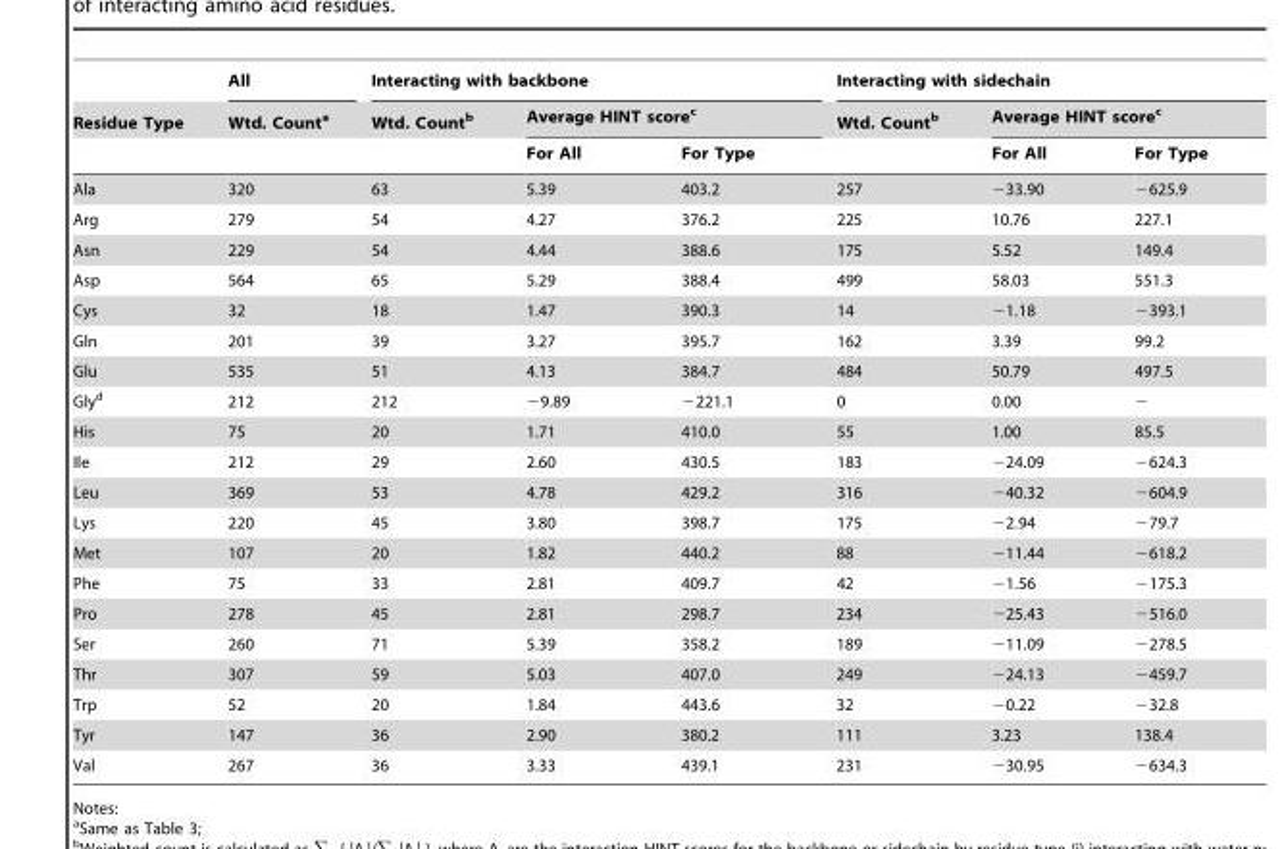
<table><thead><tr><td rowspan="3">Residue Type</td><td rowspan="3">All Wtd. Count<sup>a</sup></td><td colspan="3">Interacting with backbone</td><td colspan="3">Interacting with sidechain</td></tr><tr><td rowspan="2">Wtd. Count<sup>b</sup></td><td colspan="2">Average HINT score<sup>c</sup></td><td rowspan="2">Wtd. Count<sup>b</sup></td><td colspan="2">Average HINT score<sup>c</sup></td></tr><tr><td>For All</td><td>For Type</td><td>For All</td><td>For Type</td></tr></thead><tbody><tr><td>Ala</td><td>320</td><td>63</td><td>5.39</td><td>403.2</td><td>257</td><td>−33.90</td><td>−625.9</td></tr><tr><td>Arg</td><td>279</td><td>54</td><td>4.27</td><td>376.2</td><td>225</td><td>10.76</td><td>227.1</td></tr><tr><td>Asn</td><td>229</td><td>54</td><td>4.44</td><td>388.6</td><td>175</td><td>5.52</td><td>149.4</td></tr><tr><td>Asp</td><td>564</td><td>65</td><td>5.29</td><td>388.4</td><td>499</td><td>58.03</td><td>551.3</td></tr><tr><td>Cys</td><td>32</td><td>18</td><td>1.47</td><td>390.3</td><td>14</td><td>−1.18</td><td>−393.1</td></tr><tr><td>Gln</td><td>201</td><td>39</td><td>3.27</td><td>395.7</td><td>162</td><td>3.39</td><td>99.2</td></tr><tr><td>Glu</td><td>535</td><td>51</td><td>4.13</td><td>384.7</td><td>484</td><td>50.79</td><td>497.5</td></tr><tr><td>Gly<sup>d</sup></td><td>212</td><td>212</td><td>−9.89</td><td>−221.1</td><td>0</td><td>0.00</td><td>−</td></tr><tr><td>His</td><td>75</td><td>20</td><td>1.71</td><td>410.0</td><td>55</td><td>1.00</td><td>85.5</td></tr><tr><td>Ile</td><td>212</td><td>29</td><td>2.60</td><td>430.5</td><td>183</td><td>−24.09</td><td>−624.3</td></tr><tr><td>Leu</td><td>369</td><td>53</td><td>4.78</td><td>429.2</td><td>316</td><td>−40.32</td><td>−604.9</td></tr><tr><td>Lys</td><td>220</td><td>45</td><td>3.80</td><td>398.7</td><td>175</td><td>−2.94</td><td>−79.7</td></tr><tr><td>Met</td><td>107</td><td>20</td><td>1.82</td><td>440.2</td><td>88</td><td>−11.44</td><td>−618.2</td></tr><tr><td>Phe</td><td>75</td><td>33</td><td>2.81</td><td>409.7</td><td>42</td><td>−1.56</td><td>−175.3</td></tr><tr><td>Pro</td><td>278</td><td>45</td><td>2.81</td><td>298.7</td><td>234</td><td>−25.43</td><td>−516.0</td></tr><tr><td>Ser</td><td>260</td><td>71</td><td>5.39</td><td>358.2</td><td>189</td><td>−11.09</td><td>−278.5</td></tr><tr><td>Thr</td><td>307</td><td>59</td><td>5.03</td><td>407.0</td><td>249</td><td>−24.13</td><td>−459.7</td></tr><tr><td>Trp</td><td>52</td><td>20</td><td>1.84</td><td>443.6</td><td>32</td><td>−0.22</td><td>−32.8</td></tr><tr><td>Tyr</td><td>147</td><td>36</td><td>2.90</td><td>380.2</td><td>111</td><td>3.23</td><td>138.4</td></tr><tr><td>Val</td><td>267</td><td>36</td><td>3.33</td><td>439.1</td><td>231</td><td>−30.95</td><td>−634.3</td></tr></tbody></table>